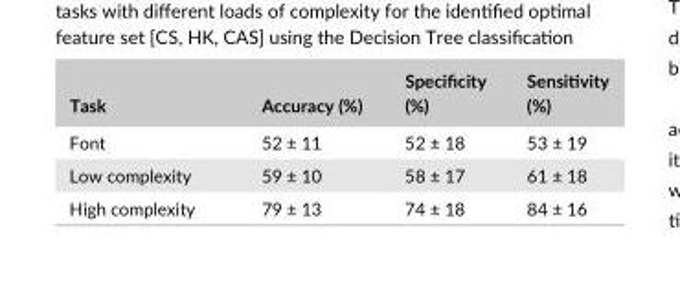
<table><thead><tr><td>Task</td><td>Accuracy (%)</td><td>Specificity (%)</td><td>Sensitivity (%)</td></tr></thead><tbody><tr><td>Font</td><td>52 ± 11</td><td>52 ± 18</td><td>53 ± 19</td></tr><tr><td>Low complexity</td><td>59 ± 10</td><td>58 ± 17</td><td>61 ± 18</td></tr><tr><td>High complexity</td><td>79 ± 13</td><td>74 ± 18</td><td>84 ± 16</td></tr></tbody></table>